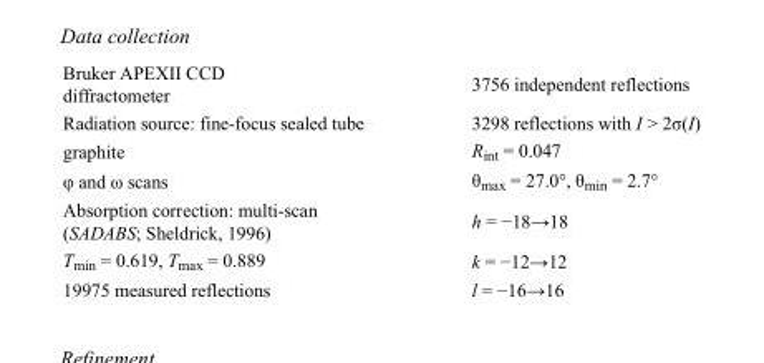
<table><tbody><tr><td>Bruker APEXII CCD diffractometer</td><td>3756 independent reflections</td></tr><tr><td>Radiation source: fine-focus sealed tube</td><td>3298 reflections with I &gt; 2σ(I)</td></tr><tr><td>graphite</td><td>R<sub>int</sub> = 0.047</td></tr><tr><td>φ and ω scans</td><td>θ<sub>max</sub> = 27.0°, θ<sub>min</sub> = 2.7°</td></tr><tr><td>Absorption correction: multi-scan (SADABS; Sheldrick, 1996)</td><td>h = −18→18</td></tr><tr><td>T<sub>min</sub> = 0.619, T<sub>max</sub> = 0.889</td><td>k = −12→12</td></tr><tr><td>19975 measured reflections</td><td>l = −16→16</td></tr></tbody></table>